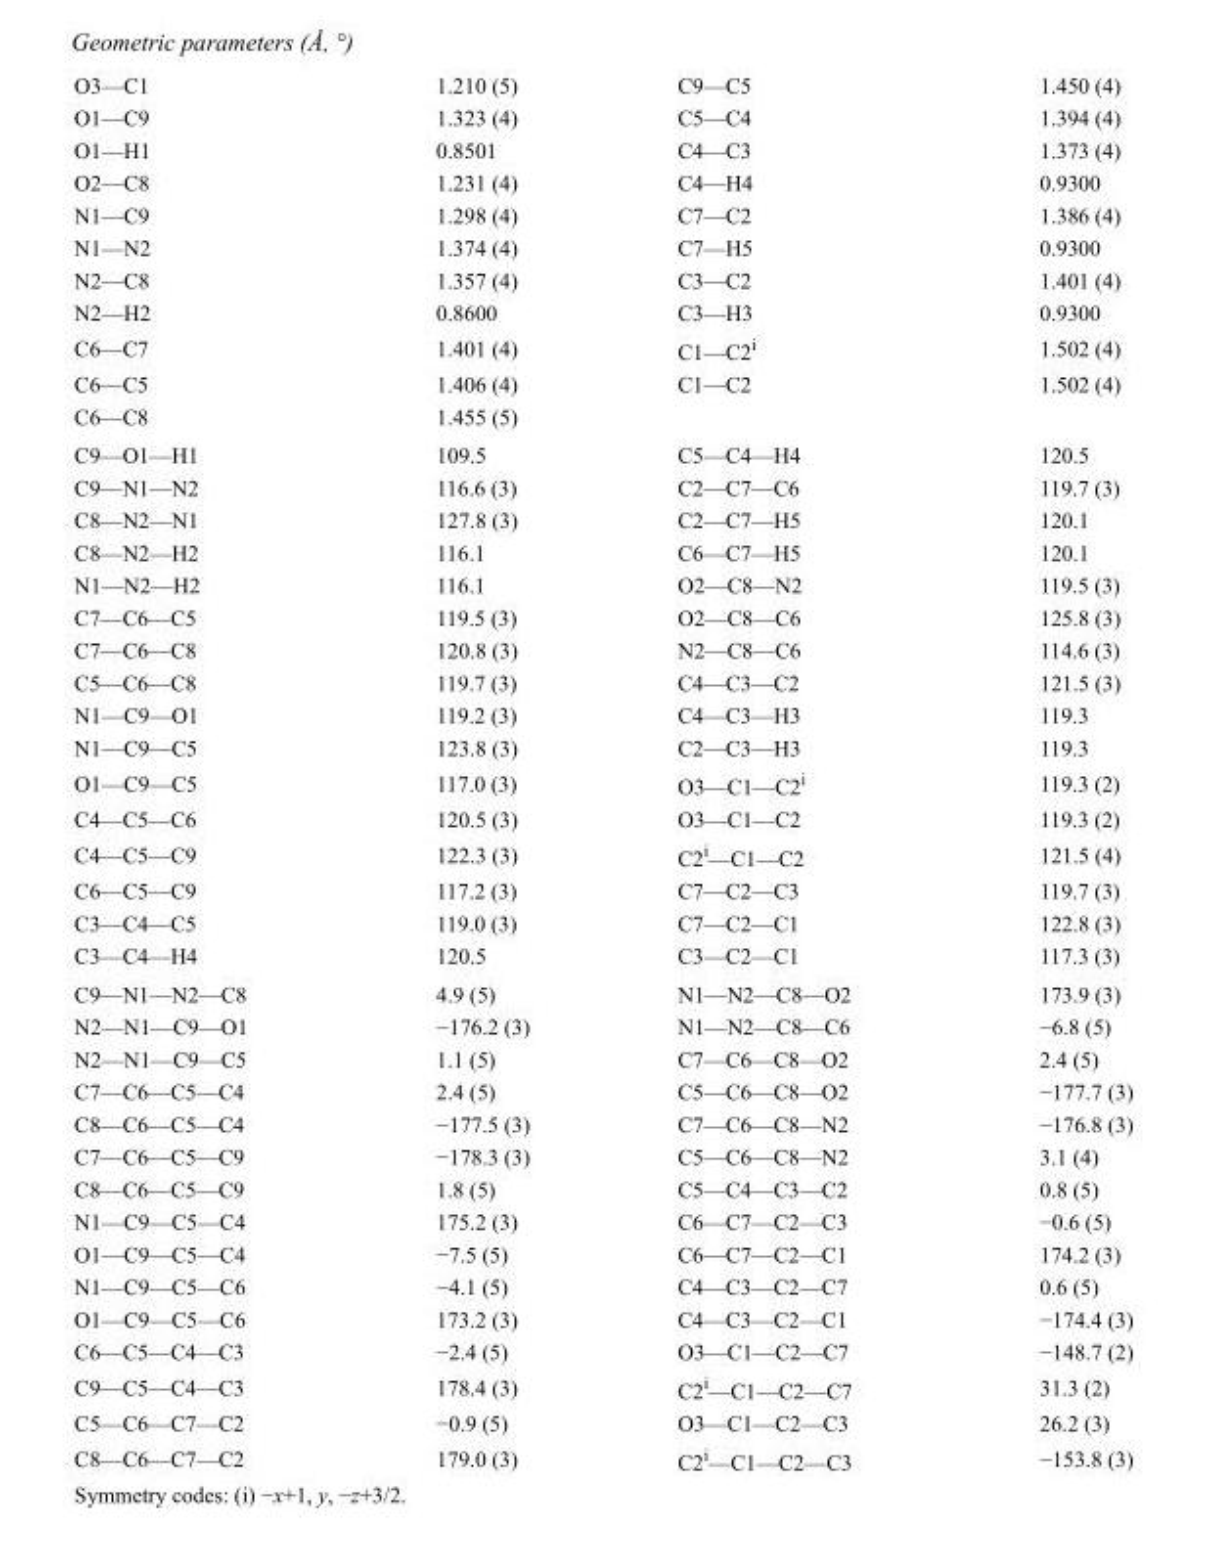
<table><tbody><tr><td>O3—C1</td><td>1.210 (5)</td><td>C9—C5</td><td>1.450 (4)</td></tr><tr><td>O1—C9</td><td>1.323 (4)</td><td>C5—C4</td><td>1.394 (4)</td></tr><tr><td>O1—H1</td><td>0.8501</td><td>C4—C3</td><td>1.373 (4)</td></tr><tr><td>O2—C8</td><td>1.231 (4)</td><td>C4—H4</td><td>0.9300</td></tr><tr><td>N1—C9</td><td>1.298 (4)</td><td>C7—C2</td><td>1.386 (4)</td></tr><tr><td>N1—N2</td><td>1.374 (4)</td><td>C7—H5</td><td>0.9300</td></tr><tr><td>N2—C8</td><td>1.357 (4)</td><td>C3—C2</td><td>1.401 (4)</td></tr><tr><td>N2—H2</td><td>0.8600</td><td>C3—H3</td><td>0.9300</td></tr><tr><td>C6—C7</td><td>1.401 (4)</td><td>C1—C2<sup>i</sup></td><td>1.502 (4)</td></tr><tr><td>C6—C5</td><td>1.406 (4)</td><td>C1—C2</td><td>1.502 (4)</td></tr><tr><td>C6—C8</td><td>1.455 (5)</td><td></td><td></td></tr><tr><td>C9—O1—H1</td><td>109.5</td><td>C5—C4—H4</td><td>120.5</td></tr><tr><td>C9—N1—N2</td><td>116.6 (3)</td><td>C2—C7—C6</td><td>119.7 (3)</td></tr><tr><td>C8—N2—N1</td><td>127.8 (3)</td><td>C2—C7—H5</td><td>120.1</td></tr><tr><td>C8—N2—H2</td><td>116.1</td><td>C6—C7—H5</td><td>120.1</td></tr><tr><td>N1—N2—H2</td><td>116.1</td><td>O2—C8—N2</td><td>119.5 (3)</td></tr><tr><td>C7—C6—C5</td><td>119.5 (3)</td><td>O2—C8—C6</td><td>125.8 (3)</td></tr><tr><td>C7—C6—C8</td><td>120.8 (3)</td><td>N2—C8—C6</td><td>114.6 (3)</td></tr><tr><td>C5—C6—C8</td><td>119.7 (3)</td><td>C4—C3—C2</td><td>121.5 (3)</td></tr><tr><td>N1—C9—O1</td><td>119.2 (3)</td><td>C4—C3—H3</td><td>119.3</td></tr><tr><td>N1—C9—C5</td><td>123.8 (3)</td><td>C2—C3—H3</td><td>119.3</td></tr><tr><td>O1—C9—C5</td><td>117.0 (3)</td><td>O3—C1—C2<sup>i</sup></td><td>119.3 (2)</td></tr><tr><td>C4—C5—C6</td><td>120.5 (3)</td><td>O3—C1—C2</td><td>119.3 (2)</td></tr><tr><td>C4—C5—C9</td><td>122.3 (3)</td><td>C2<sup>i</sup>—C1—C2</td><td>121.5 (4)</td></tr><tr><td>C6—C5—C9</td><td>117.2 (3)</td><td>C7—C2—C3</td><td>119.7 (3)</td></tr><tr><td>C3—C4—C5</td><td>119.0 (3)</td><td>C7—C2—C1</td><td>122.8 (3)</td></tr><tr><td>C3—C4—H4</td><td>120.5</td><td>C3—C2—C1</td><td>117.3 (3)</td></tr><tr><td>C9—N1—N2—C8</td><td>4.9 (5)</td><td>N1—N2—C8—O2</td><td>173.9 (3)</td></tr><tr><td>N2—N1—C9—O1</td><td>−176.2 (3)</td><td>N1—N2—C8—C6</td><td>−6.8 (5)</td></tr><tr><td>N2—N1—C9—C5</td><td>1.1 (5)</td><td>C7—C6—C8—O2</td><td>2.4 (5)</td></tr><tr><td>C7—C6—C5—C4</td><td>2.4 (5)</td><td>C5—C6—C8—O2</td><td>−177.7 (3)</td></tr><tr><td>C8—C6—C5—C4</td><td>−177.5 (3)</td><td>C7—C6—C8—N2</td><td>−176.8 (3)</td></tr><tr><td>C7—C6—C5—C9</td><td>−178.3 (3)</td><td>C5—C6—C8—N2</td><td>3.1 (4)</td></tr><tr><td>C8—C6—C5—C9</td><td>1.8 (5)</td><td>C5—C4—C3—C2</td><td>0.8 (5)</td></tr><tr><td>N1—C9—C5—C4</td><td>175.2 (3)</td><td>C6—C7—C2—C3</td><td>−0.6 (5)</td></tr><tr><td>O1—C9—C5—C4</td><td>−7.5 (5)</td><td>C6—C7—C2—C1</td><td>174.2 (3)</td></tr><tr><td>N1—C9—C5—C6</td><td>−4.1 (5)</td><td>C4—C3—C2—C7</td><td>0.6 (5)</td></tr><tr><td>O1—C9—C5—C6</td><td>173.2 (3)</td><td>C4—C3—C2—C1</td><td>−174.4 (3)</td></tr><tr><td>C6—C5—C4—C3</td><td>−2.4 (5)</td><td>O3—C1—C2—C7</td><td>−148.7 (2)</td></tr><tr><td>C9—C5—C4—C3</td><td>178.4 (3)</td><td>C2<sup>i</sup>—C1—C2—C7</td><td>31.3 (2)</td></tr><tr><td>C5—C6—C7—C2</td><td>−0.9 (5)</td><td>O3—C1—C2—C3</td><td>26.2 (3)</td></tr><tr><td>C8—C6—C7—C2</td><td>179.0 (3)</td><td>C2<sup>i</sup>—C1—C2—C3</td><td>−153.8 (3)</td></tr></tbody></table>